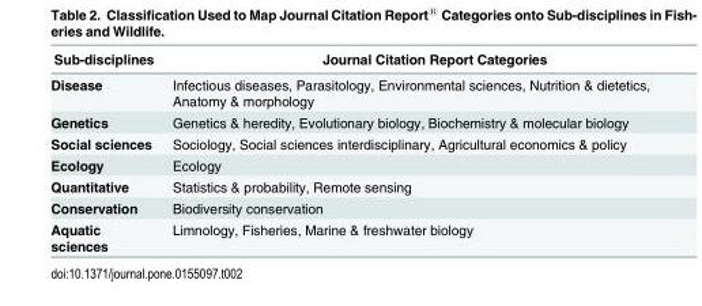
<table><thead><tr><td>Sub-disciplines</td><td>Journal Citation Report Categories</td></tr></thead><tbody><tr><td>Disease</td><td>Infectious diseases, Parasitology, Environmental sciences, Nutrition &amp; dietetics, Anatomy &amp; morphology</td></tr><tr><td>Genetics</td><td>Genetics &amp; heredity, Evolutionary biology, Biochemistry &amp; molecular biology</td></tr><tr><td>Social sciences</td><td>Sociology, Social sciences interdisciplinary, Agricultural economics &amp; policy</td></tr><tr><td>Ecology</td><td>Ecology</td></tr><tr><td>Quantitative</td><td>Statistics &amp; probability, Remote sensing</td></tr><tr><td>Conservation</td><td>Biodiversity conservation</td></tr><tr><td>Aquatic sciences</td><td>Limnology, Fisheries, Marine &amp; freshwater biology</td></tr></tbody></table>